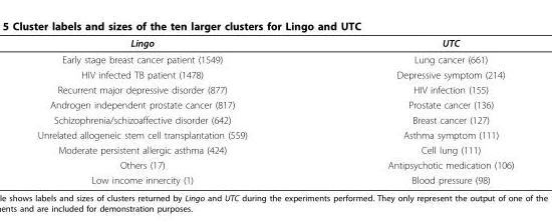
<table><thead><tr><td>Lingo</td><td>UTC</td></tr></thead><tbody><tr><td>Early stage breast cancer patient (1549)</td><td>Lung cancer (661)</td></tr><tr><td>HIV infected TB patient (1478)</td><td>Depressive symptom (214)</td></tr><tr><td>Recurrent major depressive disorder (877)</td><td>HIV infection (155)</td></tr><tr><td>Androgen independent prostate cancer (817)</td><td>Prostate cancer (136)</td></tr><tr><td>Schizophrenia/schizoaffective disorder (642)</td><td>Breast cancer (127)</td></tr><tr><td>Unrelated allogeneic stem cell transplantation (559)</td><td>Asthma symptom (111)</td></tr><tr><td>Moderate persistent allergic asthma (424)</td><td>Cell lung (111)</td></tr><tr><td>Others (17)</td><td>Antipsychotic medication (106)</td></tr><tr><td>Low income innercity (1)</td><td>Blood pressure (98)</td></tr></tbody></table>